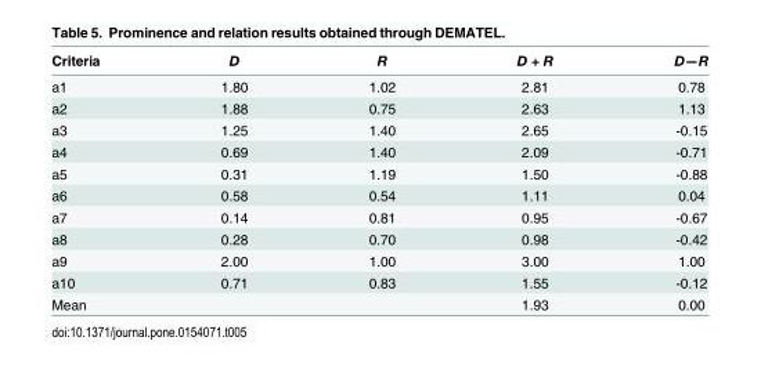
<table><thead><tr><td>Criteria</td><td>D</td><td>R</td><td>D + R</td><td>D—R</td></tr></thead><tbody><tr><td>a1</td><td>1.80</td><td>1.02</td><td>2.81</td><td>0.78</td></tr><tr><td>a2</td><td>1.88</td><td>0.75</td><td>2.63</td><td>1.13</td></tr><tr><td>a3</td><td>1.25</td><td>1.40</td><td>2.65</td><td>-0.15</td></tr><tr><td>a4</td><td>0.69</td><td>1.40</td><td>2.09</td><td>-0.71</td></tr><tr><td>a5</td><td>0.31</td><td>1.19</td><td>1.50</td><td>-0.88</td></tr><tr><td>a6</td><td>0.58</td><td>0.54</td><td>1.11</td><td>0.04</td></tr><tr><td>a7</td><td>0.14</td><td>0.81</td><td>0.95</td><td>-0.67</td></tr><tr><td>a8</td><td>0.28</td><td>0.70</td><td>0.98</td><td>-0.42</td></tr><tr><td>a9</td><td>2.00</td><td>1.00</td><td>3.00</td><td>1.00</td></tr><tr><td>a10</td><td>0.71</td><td>0.83</td><td>1.55</td><td>-0.12</td></tr><tr><td>Mean</td><td></td><td></td><td>1.93</td><td>0.00</td></tr></tbody></table>